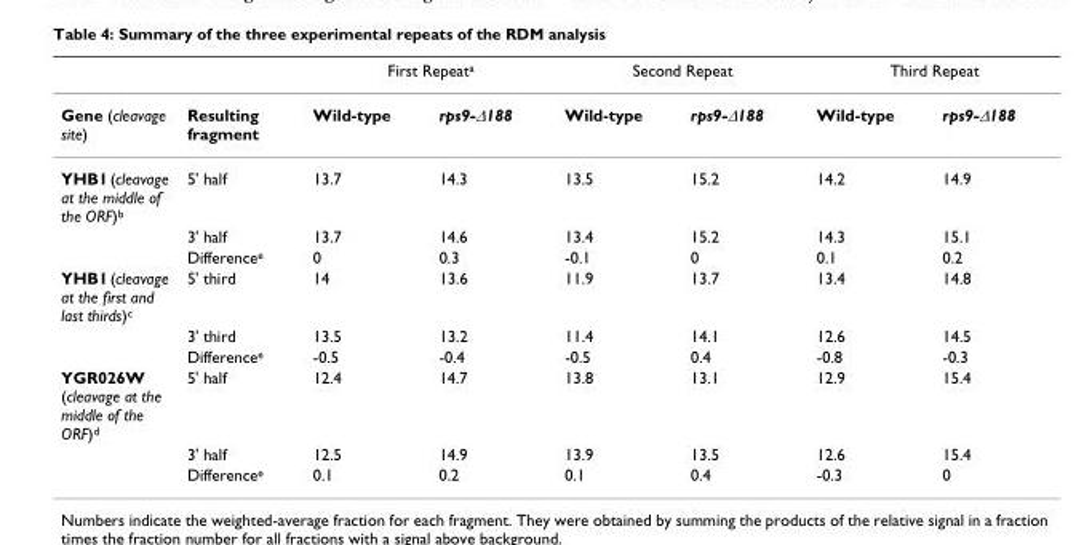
<table><thead><tr><td rowspan="2">Gene (cleavage site)</td><td rowspan="2">Resulting fragment</td><td colspan="2">First Repeat<sup>a</sup></td><td colspan="2">Second Repeat</td><td colspan="2">Third Repeat</td></tr><tr><td>Wild-type</td><td>rps9-Δ188</td><td>Wild-type</td><td>rps9-Δ188</td><td>Wild-type</td><td>rps9-Δ188</td></tr></thead><tbody><tr><td rowspan="3">YHB1 (cleavage at the middle of the ORF)<sup>b</sup></td><td>5&#x27; half</td><td>13.7</td><td>14.3</td><td>13.5</td><td>15.2</td><td>14.2</td><td>14.9</td></tr><tr><td>3&#x27; half</td><td>13.7</td><td>14.6</td><td>13.4</td><td>15.2</td><td>14.3</td><td>15.1</td></tr><tr><td>Difference<sup>e</sup></td><td>0</td><td>0.3</td><td>-0.1</td><td>0</td><td>0.1</td><td>0.2</td></tr><tr><td rowspan="3">YHB1 (cleavage at the first and last thirds)<sup>c</sup></td><td>5&#x27; third</td><td>14</td><td>13.6</td><td>11.9</td><td>13.7</td><td>13.4</td><td>14.8</td></tr><tr><td>3&#x27; third</td><td>13.5</td><td>13.2</td><td>11.4</td><td>14.1</td><td>12.6</td><td>14.5</td></tr><tr><td>Difference<sup>e</sup></td><td>-0.5</td><td>-0.4</td><td>-0.5</td><td>0.4</td><td>-0.8</td><td>-0.3</td></tr><tr><td rowspan="3">YGR026W (cleavage at the middle of the ORF)<sup>d</sup></td><td>5&#x27; half</td><td>12.4</td><td>14.7</td><td>13.8</td><td>13.1</td><td>12.9</td><td>15.4</td></tr><tr><td>3&#x27; half</td><td>12.5</td><td>14.9</td><td>13.9</td><td>13.5</td><td>12.6</td><td>15.4</td></tr><tr><td>Difference<sup>e</sup></td><td>0.1</td><td>0.2</td><td>0.1</td><td>0.4</td><td>-0.3</td><td>0</td></tr></tbody></table>